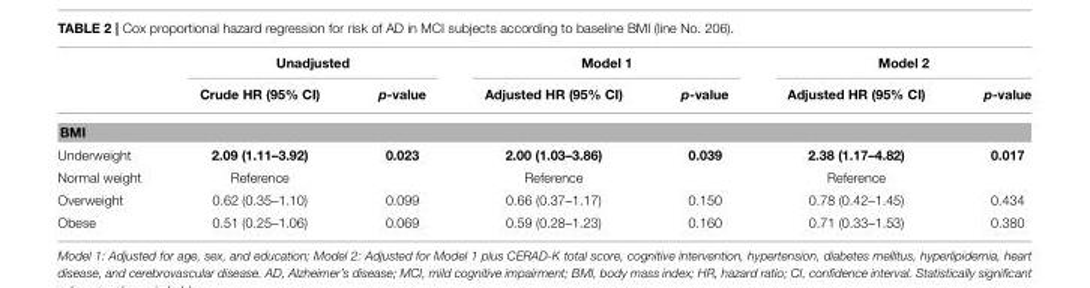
<table><thead><tr><td rowspan="2"></td><td colspan="2">Unadjusted</td><td colspan="2">Model 1</td><td colspan="2">Model 2</td></tr><tr><td>Crude HR (95% CI)</td><td>p-value</td><td>Adjusted HR (95% CI)</td><td>p-value</td><td>Adjusted HR (95% CI)</td><td>p-value</td></tr></thead><tbody><tr><td colspan="7">BMI</td></tr><tr><td>Underweight</td><td>2.09 (1.11–3.92)</td><td>0.023</td><td>2.00 (1.03–3.86)</td><td>0.039</td><td>2.38 (1.17–4.82)</td><td>0.017</td></tr><tr><td>Normal weight</td><td>Reference</td><td></td><td>Reference</td><td></td><td>Reference</td><td></td></tr><tr><td>Overweight</td><td>0.62 (0.35–1.10)</td><td>0.099</td><td>0.66 (0.37–1.17)</td><td>0.150</td><td>0.78 (0.42–1.45)</td><td>0.434</td></tr><tr><td>Obese</td><td>0.51 (0.25–1.06)</td><td>0.069</td><td>0.59 (0.28–1.23)</td><td>0.160</td><td>0.71 (0.33–1.53)</td><td>0.380</td></tr></tbody></table>